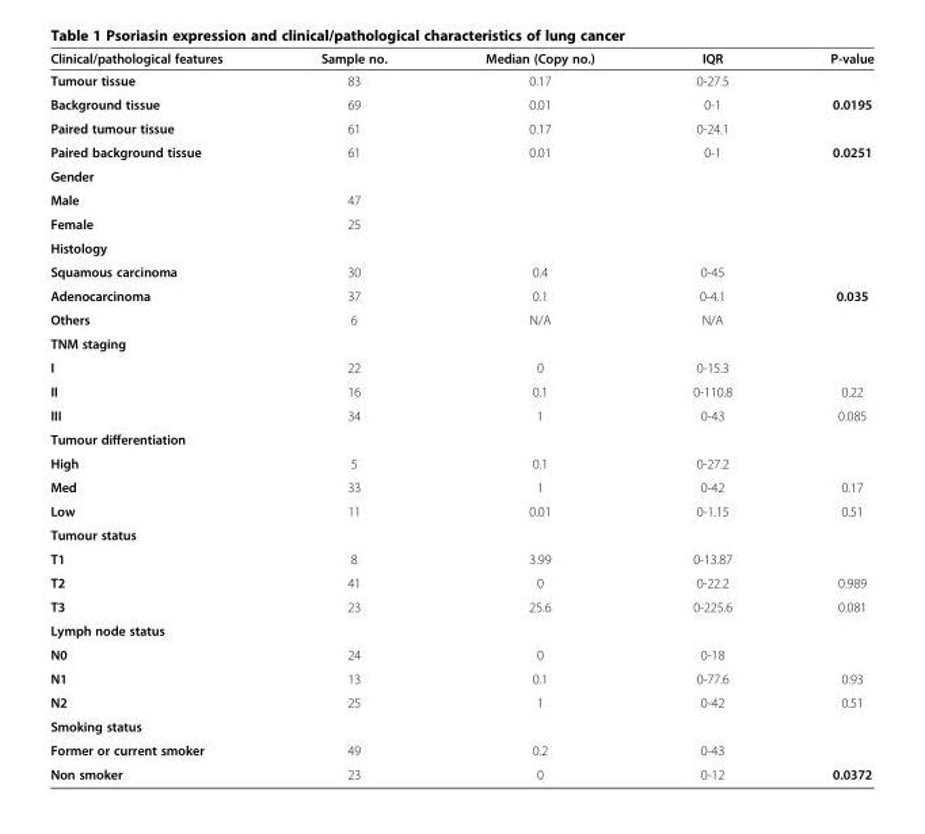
<table><thead><tr><td>Clinical/pathological features</td><td>Sample no.</td><td>Median (Copy no.)</td><td>IQR</td><td>P-value</td></tr></thead><tbody><tr><td>Tumour tissue</td><td>83</td><td>0.17</td><td>0-27.5</td><td></td></tr><tr><td>Background tissue</td><td>69</td><td>0.01</td><td>0-1</td><td>0.0195</td></tr><tr><td>Paired tumour tissue</td><td>61</td><td>0.17</td><td>0-24.1</td><td></td></tr><tr><td>Paired background tissue</td><td>61</td><td>0.01</td><td>0-1</td><td>0.0251</td></tr><tr><td colspan="5">Gender</td></tr><tr><td>Male</td><td>47</td><td></td><td></td><td></td></tr><tr><td>Female</td><td>25</td><td></td><td></td><td></td></tr><tr><td colspan="5">Histology</td></tr><tr><td>Squamous carcinoma</td><td>30</td><td>0.4</td><td>0-45</td><td></td></tr><tr><td>Adenocarcinoma</td><td>37</td><td>0.1</td><td>0-4.1</td><td>0.035</td></tr><tr><td>Others</td><td>6</td><td>N/A</td><td>N/A</td><td></td></tr><tr><td colspan="5">TNM staging</td></tr><tr><td>I</td><td>22</td><td>0</td><td>0-15.3</td><td></td></tr><tr><td>II</td><td>16</td><td>0.1</td><td>0-110.8</td><td>0.22</td></tr><tr><td>III</td><td>34</td><td>1</td><td>0-43</td><td>0.085</td></tr><tr><td colspan="5">Tumour differentiation</td></tr><tr><td>High</td><td>5</td><td>0.1</td><td>0-27.2</td><td></td></tr><tr><td>Med</td><td>33</td><td>1</td><td>0-42</td><td>0.17</td></tr><tr><td>Low</td><td>11</td><td>0.01</td><td>0-1.15</td><td>0.51</td></tr><tr><td colspan="5">Tumour status</td></tr><tr><td>T1</td><td>8</td><td>3.99</td><td>0-13.87</td><td></td></tr><tr><td>T2</td><td>41</td><td>0</td><td>0-22.2</td><td>0.989</td></tr><tr><td>T3</td><td>23</td><td>25.6</td><td>0-225.6</td><td>0.081</td></tr><tr><td colspan="5">Lymph node status</td></tr><tr><td>N0</td><td>24</td><td>0</td><td>0-18</td><td></td></tr><tr><td>N1</td><td>13</td><td>0.1</td><td>0-77.6</td><td>0.93</td></tr><tr><td>N2</td><td>25</td><td>1</td><td>0-42</td><td>0.51</td></tr><tr><td colspan="5">Smoking status</td></tr><tr><td>Former or current smoker</td><td>49</td><td>0.2</td><td>0-43</td><td></td></tr><tr><td>Non smoker</td><td>23</td><td>0</td><td>0-12</td><td>0.0372</td></tr></tbody></table>